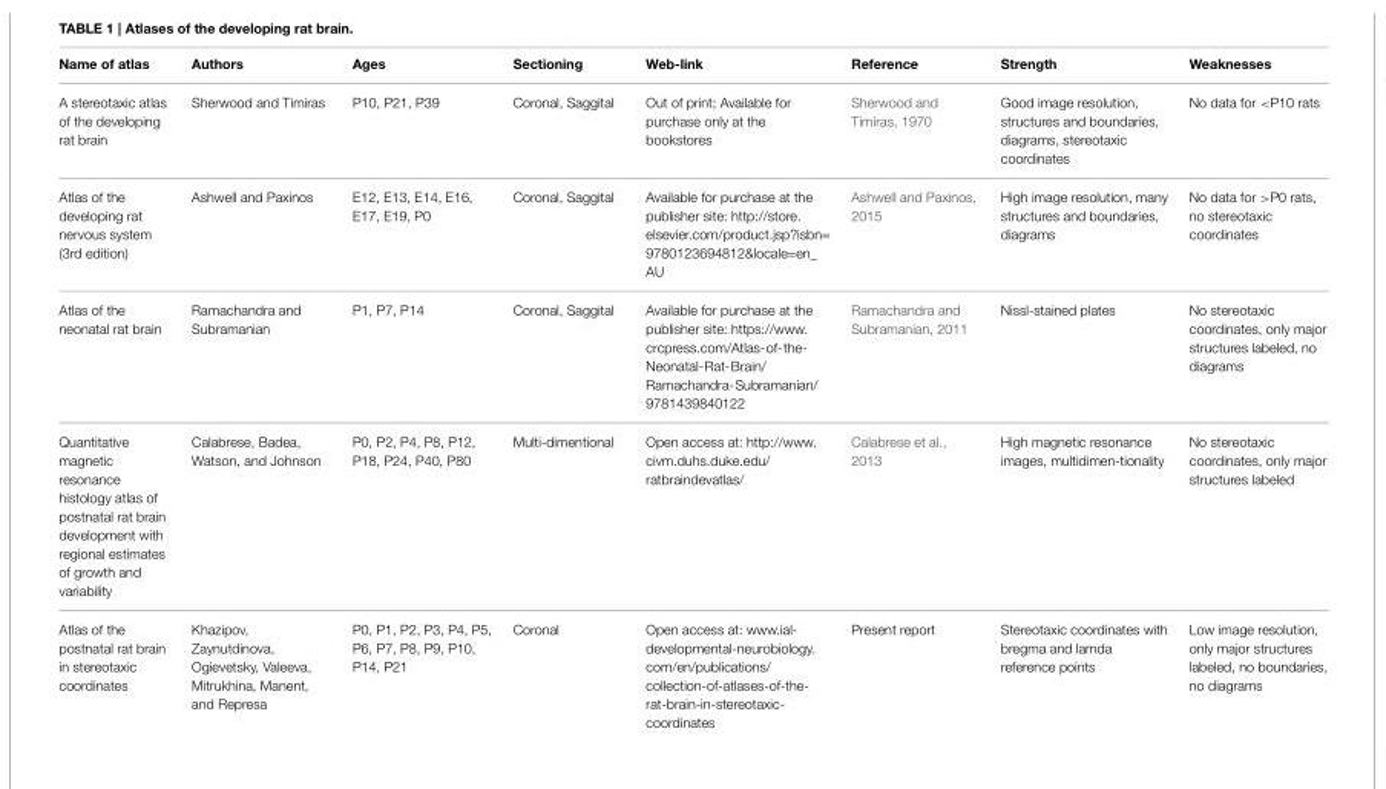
<table><thead><tr><td>Name of atlas</td><td>Authors</td><td>Ages</td><td>Sectioning</td><td>Web-link</td><td>Reference</td><td>Strength</td><td>Weaknesses</td></tr></thead><tbody><tr><td>A stereotaxic atlas of the developing rat brain</td><td>Sherwood and Timiras</td><td>P10, P21, P39</td><td>Coronal, Saggital</td><td>Out of print; Available for purchase only at the bookstores</td><td>Sherwood and Timiras, 1970</td><td>Good image resolution, structures and boundaries, diagrams, stereotaxic coordinates</td><td>No data for &lt;P10 rats</td></tr><tr><td>Atlas of the developing rat nervous system (3rd edition)</td><td>Ashwell and Paxinos</td><td>E12, E13, E14, E16, E17, E19, P0</td><td>Coronal, Saggital</td><td>Available for purchase at the publisher site: http://store. elsevier.com/product.jsp?isbn= 9780123694812&amp;locale=en_ AU</td><td>Ashwell and Paxinos, 2015</td><td>High image resolution, many structures and boundaries, diagrams</td><td>No data for &gt;P0 rats, no stereotaxic coordinates</td></tr><tr><td>Atlas of the neonatal rat brain</td><td>Ramachandra and Subramanian</td><td>P1, P7, P14</td><td>Coronal, Saggital</td><td>Available for purchase at the publisher site: https://www. crcpress.com/Atlas-of-the- Neonatal-Rat-Brain/ Ramachandra-Subramanian/ 9781439840122</td><td>Ramachandra and Subramanian, 2011</td><td>Nissl-stained plates</td><td>No stereotaxic coordinates, only major structures labeled, no diagrams</td></tr><tr><td>Quantitative magnetic resonance histology atlas of postnatal rat brain development with regional estimates of growth and variability</td><td>Calabrese, Badea, Watson, and Johnson</td><td>P0, P2, P4, P8, P12, P18, P24, P40, P80</td><td>Multi-dimentional</td><td>Open access at: http://www. civm.duhs.duke.edu/ ratbraindevatlas/</td><td>Calabrese et al., 2013</td><td>High magnetic resonance images, multidimen-tionality</td><td>No stereotaxic coordinates, only major structures labeled</td></tr><tr><td>Atlas of the postnatal rat brain in stereotaxic coordinates</td><td>Khazipov, Zaynutdinova, Ogievetsky, Valeeva, Mitrukhina, Manent, and Represa</td><td>P0, P1, P2, P3, P4, P5, P6, P7, P8, P9, P10, P14, P21</td><td>Coronal</td><td>Open access at: www.ial- developmental-neurobiology. com/en/publications/ collection-of-atlases-of-the- rat-brain-in-stereotaxic- coordinates</td><td>Present report</td><td>Stereotaxic coordinates with bregma and lamda reference points</td><td>Low image resolution, only major structures labeled, no boundaries, no diagrams</td></tr></tbody></table>